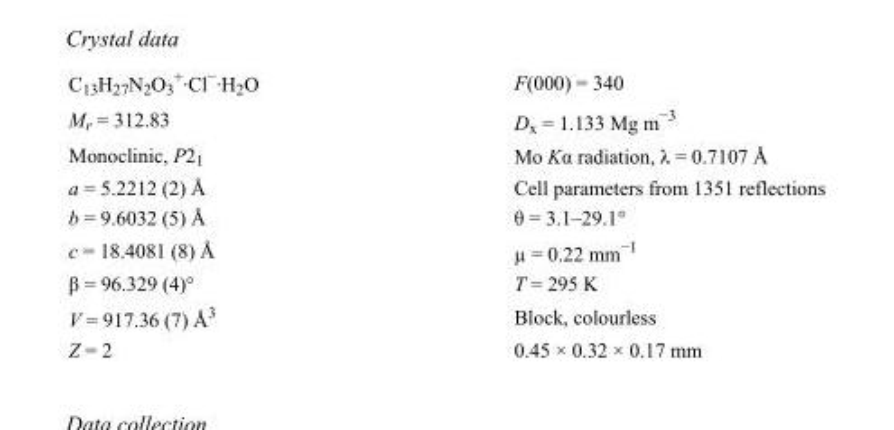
<table><tbody><tr><td>C<sub>13</sub>H<sub>27</sub>N<sub>2</sub>O<sub>3</sub> <sup>+</sup>·Cl<sup>−</sup>·H<sub>2</sub>O</td><td>F(000) = 340</td></tr><tr><td>M<sub>r</sub> = 312.83</td><td>D<sub>x</sub> = 1.133 Mg m<sup>−3</sup></td></tr><tr><td>Monoclinic, P2<sub>1</sub></td><td>Mo Kα radiation, λ = 0.7107 Å</td></tr><tr><td>a = 5.2212 (2) Å</td><td>Cell parameters from 1351 reflections</td></tr><tr><td>b = 9.6032 (5) Å</td><td>θ = 3.1–29.1°</td></tr><tr><td>c = 18.4081 (8) Å</td><td>µ = 0.22 mm<sup>−1</sup></td></tr><tr><td>β = 96.329 (4)°</td><td>T = 295 K</td></tr><tr><td>V = 917.36 (7) Å<sup>3</sup></td><td>Block, colourless</td></tr><tr><td>Z = 2</td><td>0.45 × 0.32 × 0.17 mm</td></tr></tbody></table>